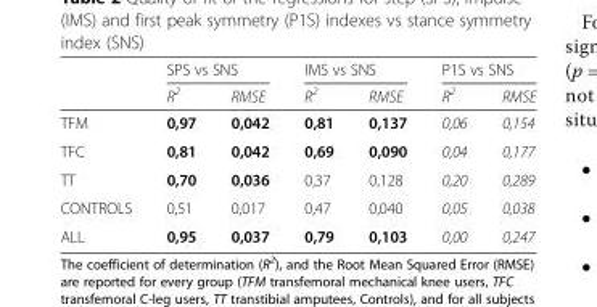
<table><thead><tr><td rowspan="2"></td><td colspan="2">SPS vs SNS</td><td colspan="2">IMS vs SNS</td><td colspan="2">P1S vs SNS</td></tr><tr><td>R<sup>2</sup></td><td>RMSE</td><td>R<sup>2</sup></td><td>RMSE</td><td>R<sup>2</sup></td><td>RMSE</td></tr></thead><tbody><tr><td>TFM</td><td>0,97</td><td>0,042</td><td>0,81</td><td>0,137</td><td>0,06</td><td>0,154</td></tr><tr><td>TFC</td><td>0,81</td><td>0,042</td><td>0,69</td><td>0,090</td><td>0,04</td><td>0,177</td></tr><tr><td>TT</td><td>0,70</td><td>0,036</td><td>0,37</td><td>0,128</td><td>0,20</td><td>0,289</td></tr><tr><td>CONTROLS</td><td>0,51</td><td>0,017</td><td>0,47</td><td>0,040</td><td>0,05</td><td>0,038</td></tr><tr><td>ALL</td><td>0,95</td><td>0,037</td><td>0,79</td><td>0,103</td><td>0,00</td><td>0,247</td></tr></tbody></table>